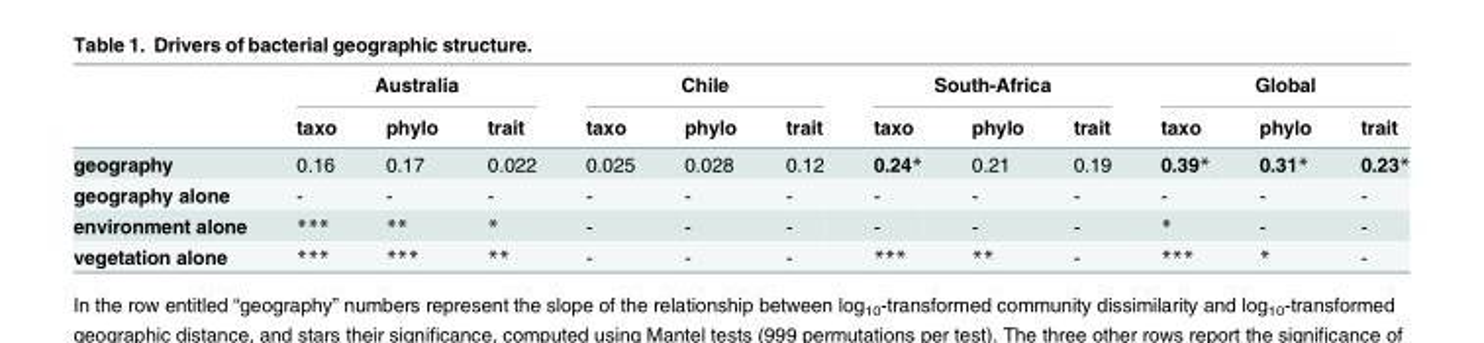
<table><thead><tr><td rowspan="2"></td><td colspan="3">Australia</td><td colspan="3">Chile</td><td colspan="3">South-Africa</td><td colspan="3">Global</td></tr><tr><td>taxo</td><td>phylo</td><td>trait</td><td>taxo</td><td>phylo</td><td>trait</td><td>taxo</td><td>phylo</td><td>trait</td><td>taxo</td><td>phylo</td><td>trait</td></tr></thead><tbody><tr><td>geography</td><td>0.16</td><td>0.17</td><td>0.022</td><td>0.025</td><td>0.028</td><td>0.12</td><td>0.24*</td><td>0.21</td><td>0.19</td><td>0.39*</td><td>0.31*</td><td>0.23*</td></tr><tr><td>geography alone</td><td>-</td><td>-</td><td>-</td><td>-</td><td>-</td><td>-</td><td>-</td><td>-</td><td>-</td><td>-</td><td>-</td><td>-</td></tr><tr><td>environment alone</td><td>***</td><td>**</td><td>*</td><td>-</td><td>-</td><td>-</td><td>-</td><td>-</td><td>-</td><td>*</td><td>-</td><td>-</td></tr><tr><td>vegetation alone</td><td>***</td><td>***</td><td>**</td><td>-</td><td>-</td><td>-</td><td>***</td><td>**</td><td>-</td><td>***</td><td>*</td><td>-</td></tr></tbody></table>